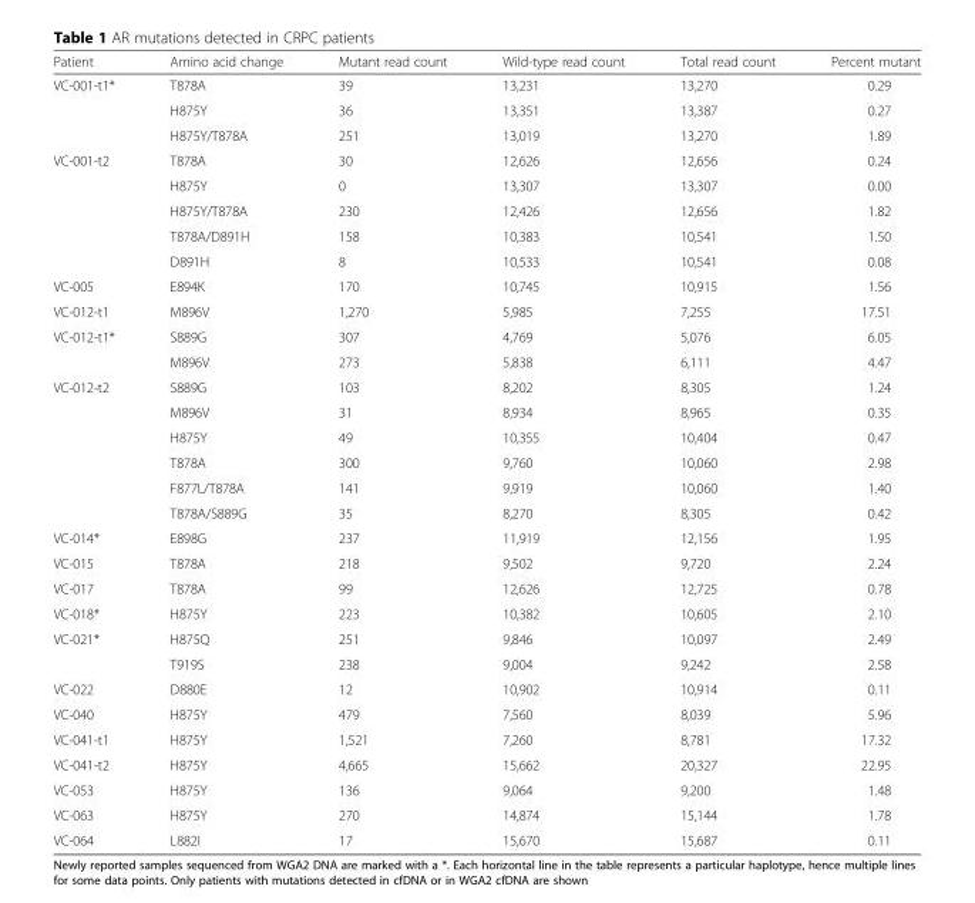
<table><thead><tr><td>Patient</td><td>Amino acid change</td><td>Mutant read count</td><td>Wild-type read count</td><td>Total read count</td><td>Percent mutant</td></tr></thead><tbody><tr><td rowspan="3">VC-001-t1*</td><td>T878A</td><td>39</td><td>13,231</td><td>13,270</td><td>0.29</td></tr><tr><td>H875Y</td><td>36</td><td>13,351</td><td>13,387</td><td>0.27</td></tr><tr><td>H875Y/T878A</td><td>251</td><td>13,019</td><td>13,270</td><td>1.89</td></tr><tr><td rowspan="5">VC-001-t2</td><td>T878A</td><td>30</td><td>12,626</td><td>12,656</td><td>0.24</td></tr><tr><td>H875Y</td><td>0</td><td>13,307</td><td>13,307</td><td>0.00</td></tr><tr><td>H875Y/T878A</td><td>230</td><td>12,426</td><td>12,656</td><td>1.82</td></tr><tr><td>T878A/D891H</td><td>158</td><td>10,383</td><td>10,541</td><td>1.50</td></tr><tr><td>D891H</td><td>8</td><td>10,533</td><td>10,541</td><td>0.08</td></tr><tr><td>VC-005</td><td>E894K</td><td>170</td><td>10,745</td><td>10,915</td><td>1.56</td></tr><tr><td>VC-012-t1</td><td>M896V</td><td>1,270</td><td>5,985</td><td>7,255</td><td>17.51</td></tr><tr><td rowspan="2">VC-012-t1*</td><td>S889G</td><td>307</td><td>4,769</td><td>5,076</td><td>6.05</td></tr><tr><td>M896V</td><td>273</td><td>5,838</td><td>6,111</td><td>4.47</td></tr><tr><td rowspan="6">VC-012-t2</td><td>S889G</td><td>103</td><td>8,202</td><td>8,305</td><td>1.24</td></tr><tr><td>M896V</td><td>31</td><td>8,934</td><td>8,965</td><td>0.35</td></tr><tr><td>H875Y</td><td>49</td><td>10,355</td><td>10,404</td><td>0.47</td></tr><tr><td>T878A</td><td>300</td><td>9,760</td><td>10,060</td><td>2.98</td></tr><tr><td>F877L/T878A</td><td>141</td><td>9,919</td><td>10,060</td><td>1.40</td></tr><tr><td>T878A/S889G</td><td>35</td><td>8,270</td><td>8,305</td><td>0.42</td></tr><tr><td>VC-014*</td><td>E898G</td><td>237</td><td>11,919</td><td>12,156</td><td>1.95</td></tr><tr><td>VC-015</td><td>T878A</td><td>218</td><td>9,502</td><td>9,720</td><td>2.24</td></tr><tr><td>VC-017</td><td>T878A</td><td>99</td><td>12,626</td><td>12,725</td><td>0.78</td></tr><tr><td>VC-018*</td><td>H875Y</td><td>223</td><td>10,382</td><td>10,605</td><td>2.10</td></tr><tr><td rowspan="2">VC-021*</td><td>H875Q</td><td>251</td><td>9,846</td><td>10,097</td><td>2.49</td></tr><tr><td>T919S</td><td>238</td><td>9,004</td><td>9,242</td><td>2.58</td></tr><tr><td>VC-022</td><td>D880E</td><td>12</td><td>10,902</td><td>10,914</td><td>0.11</td></tr><tr><td>VC-040</td><td>H875Y</td><td>479</td><td>7,560</td><td>8,039</td><td>5.96</td></tr><tr><td>VC-041-t1</td><td>H875Y</td><td>1,521</td><td>7,260</td><td>8,781</td><td>17.32</td></tr><tr><td>VC-041-t2</td><td>H875Y</td><td>4,665</td><td>15,662</td><td>20,327</td><td>22.95</td></tr><tr><td>VC-053</td><td>H875Y</td><td>136</td><td>9,064</td><td>9,200</td><td>1.48</td></tr><tr><td>VC-063</td><td>H875Y</td><td>270</td><td>14,874</td><td>15,144</td><td>1.78</td></tr><tr><td>VC-064</td><td>L882I</td><td>17</td><td>15,670</td><td>15,687</td><td>0.11</td></tr></tbody></table>